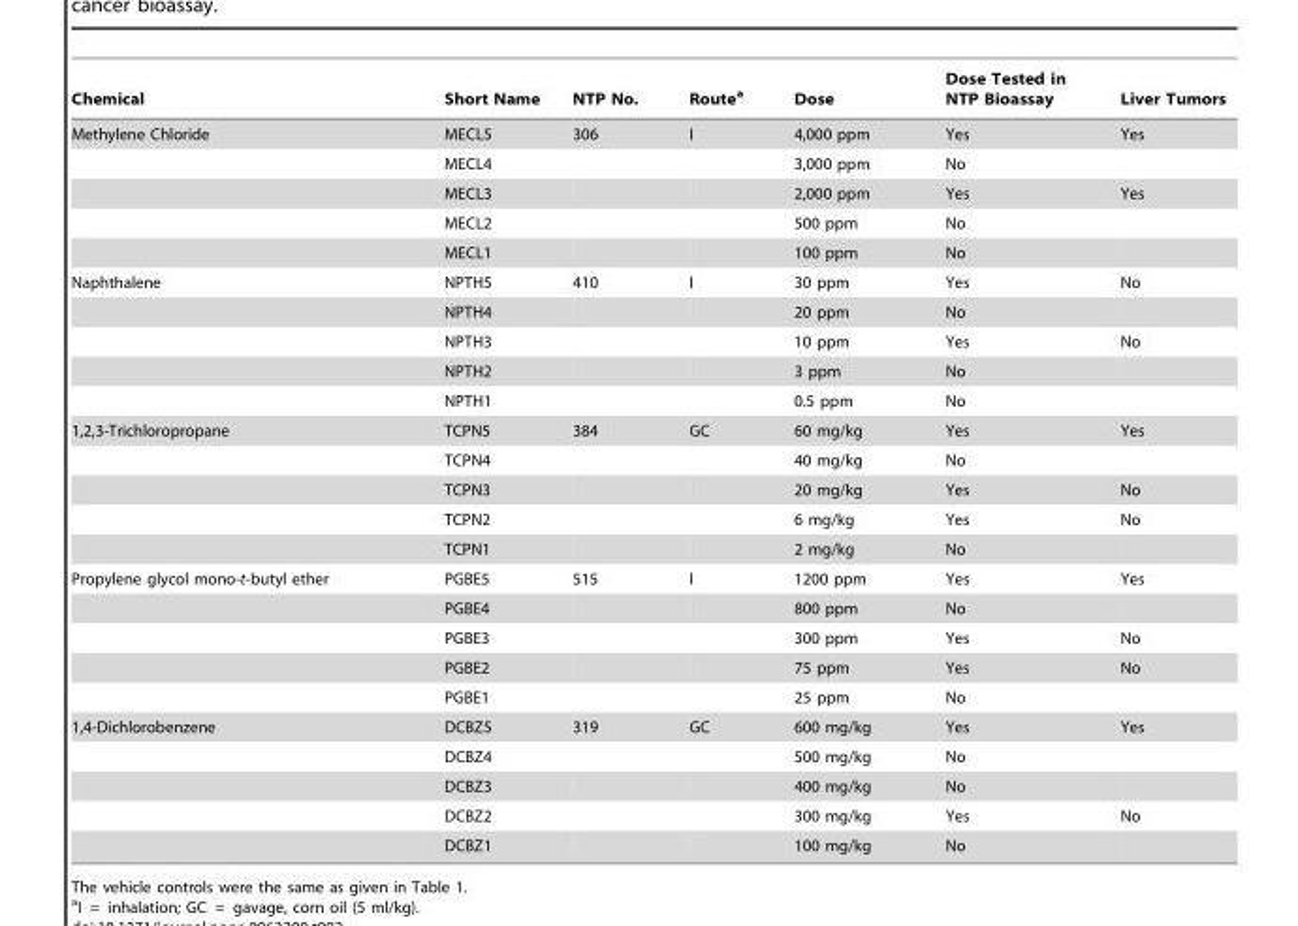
<table><thead><tr><td>Chemical</td><td>Short Name</td><td>NTP No.</td><td>Route<sup>a</sup></td><td>Dose</td><td>Dose Tested in NTP Bioassay</td><td>Liver Tumors</td></tr></thead><tbody><tr><td rowspan="5">Methylene Chloride</td><td>MECL5</td><td>306</td><td>I</td><td>4,000 ppm</td><td>Yes</td><td>Yes</td></tr><tr><td>MECL4</td><td></td><td></td><td>3,000 ppm</td><td>No</td><td></td></tr><tr><td>MECL3</td><td></td><td></td><td>2,000 ppm</td><td>Yes</td><td>Yes</td></tr><tr><td>MECL2</td><td></td><td></td><td>500 ppm</td><td>No</td><td></td></tr><tr><td>MECL1</td><td></td><td></td><td>100 ppm</td><td>No</td><td></td></tr><tr><td rowspan="5">Naphthalene</td><td>NPTH5</td><td>410</td><td>I</td><td>30 ppm</td><td>Yes</td><td>No</td></tr><tr><td>NPTH4</td><td></td><td></td><td>20 ppm</td><td>No</td><td></td></tr><tr><td>NPTH3</td><td></td><td></td><td>10 ppm</td><td>Yes</td><td>No</td></tr><tr><td>NPTH2</td><td></td><td></td><td>3 ppm</td><td>No</td><td></td></tr><tr><td>NPTH1</td><td></td><td></td><td>0.5 ppm</td><td>No</td><td></td></tr><tr><td rowspan="5">1,2,3-Trichloropropane</td><td>TCPN5</td><td>384</td><td>GC</td><td>60 mg/kg</td><td>Yes</td><td>Yes</td></tr><tr><td>TCPN4</td><td></td><td></td><td>40 mg/kg</td><td>No</td><td></td></tr><tr><td>TCPN3</td><td></td><td></td><td>20 mg/kg</td><td>Yes</td><td>No</td></tr><tr><td>TCPN2</td><td></td><td></td><td>6 mg/kg</td><td>Yes</td><td>No</td></tr><tr><td>TCPN1</td><td></td><td></td><td>2 mg/kg</td><td>No</td><td></td></tr><tr><td rowspan="5">Propylene glycol mono-t-butyl ether</td><td>PGBE5</td><td>515</td><td>I</td><td>1200 ppm</td><td>Yes</td><td>Yes</td></tr><tr><td>PGBE4</td><td></td><td></td><td>800 ppm</td><td>No</td><td></td></tr><tr><td>PGBE3</td><td></td><td></td><td>300 ppm</td><td>Yes</td><td>No</td></tr><tr><td>PGBE2</td><td></td><td></td><td>75 ppm</td><td>Yes</td><td>No</td></tr><tr><td>PGBE1</td><td></td><td></td><td>25 ppm</td><td>No</td><td></td></tr><tr><td rowspan="5">1,4-Dichlorobenzene</td><td>DCBZ5</td><td>319</td><td>GC</td><td>600 mg/kg</td><td>Yes</td><td>Yes</td></tr><tr><td>DCBZ4</td><td></td><td></td><td>500 mg/kg</td><td>No</td><td></td></tr><tr><td>DCBZ3</td><td></td><td></td><td>400 mg/kg</td><td>No</td><td></td></tr><tr><td>DCBZ2</td><td></td><td></td><td>300 mg/kg</td><td>Yes</td><td>No</td></tr><tr><td>DCBZ1</td><td></td><td></td><td>100 mg/kg</td><td>No</td><td></td></tr></tbody></table>